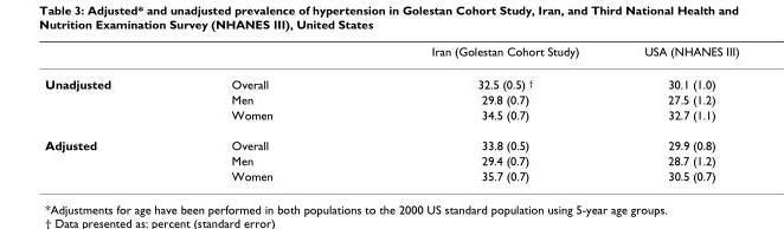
<table><thead><tr><td></td><td></td><td>Iran (Golestan Cohort Study)</td><td>USA (NHANES III)</td></tr></thead><tbody><tr><td rowspan="3">Unadjusted</td><td>Overall</td><td>32.5 (0.5) †</td><td>30.1 (1.0)</td></tr><tr><td>Men</td><td>29.8 (0.7)</td><td>27.5 (1.2)</td></tr><tr><td>Women</td><td>34.5 (0.7)</td><td>32.7 (1.1)</td></tr><tr><td rowspan="3">Adjusted</td><td>Overall</td><td>33.8 (0.5)</td><td>29.9 (0.8)</td></tr><tr><td>Men</td><td>29.4 (0.7)</td><td>28.7 (1.2)</td></tr><tr><td>Women</td><td>35.7 (0.7)</td><td>30.5 (0.7)</td></tr></tbody></table>